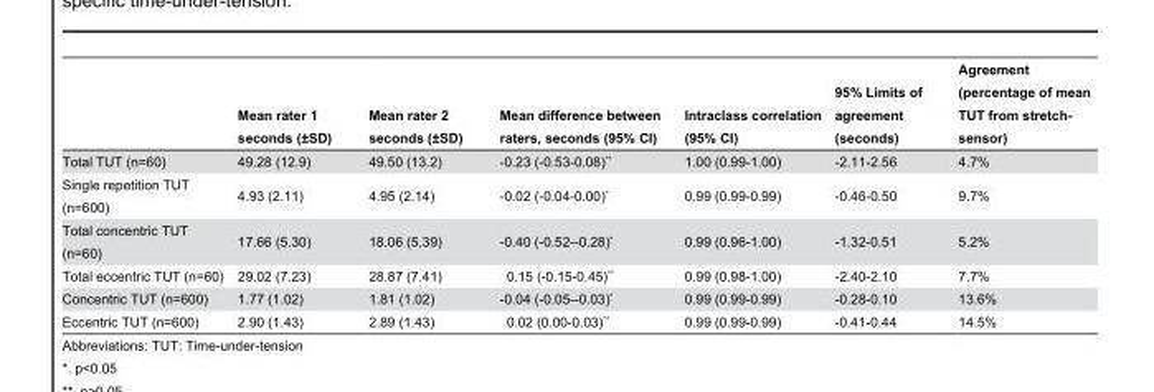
<table><thead><tr><td></td><td>Mean rater 1 seconds (±SD)</td><td>Mean rater 2 seconds (±SD)</td><td>Mean difference between raters, seconds (95% CI)</td><td>Intraclass correlation (95% CI)</td><td>95% Limits of agreement (seconds)</td><td>Agreement (percentage of mean TUT from stretch- sensor)</td></tr></thead><tbody><tr><td>Total TUT (n=60)</td><td>49.28 (12.9)</td><td>49.50 (13.2)</td><td>-0.23 (-0.53-0.08)**</td><td>1.00 (0.99-1.00)</td><td>-2.11-2.56</td><td>4.7%</td></tr><tr><td>Single repetition TUT (n=600)</td><td>4.93 (2.11)</td><td>4.95 (2.14)</td><td>-0.02 (-0.04-0.00)*</td><td>0.99 (0.99-0.99)</td><td>-0.46-0.50</td><td>9.7%</td></tr><tr><td>Total concentric TUT (n=60)</td><td>17.66 (5.30)</td><td>18.06 (5.39)</td><td>-0.40 (-0.52--0.28)*</td><td>0.99 (0.96-1.00)</td><td>-1.32-0.51</td><td>5.2%</td></tr><tr><td>Total eccentric TUT (n=60)</td><td>29.02 (7.23)</td><td>28.87 (7.41)</td><td>0.15 (-0.15-0.45)**</td><td>0.99 (0.98-1.00)</td><td>-2.40-2.10</td><td>7.7%</td></tr><tr><td>Concentric TUT (n=600)</td><td>1.77 (1.02)</td><td>1.81 (1.02)</td><td>-0.04 (-0.05--0.03)*</td><td>0.99 (0.99-0.99)</td><td>-0.28-0.10</td><td>13.6%</td></tr><tr><td>Eccentric TUT (n=600)</td><td>2.90 (1.43)</td><td>2.89 (1.43)</td><td>0.02 (0.00-0.03)**</td><td>0.99 (0.99-0.99)</td><td>-0.41-0.44</td><td>14.5%</td></tr></tbody></table>